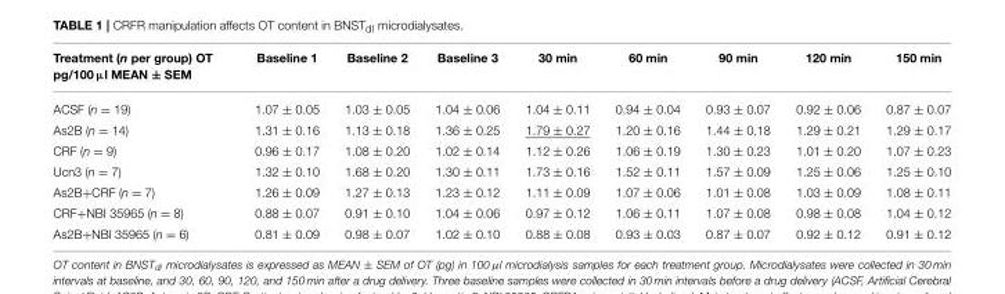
<table><thead><tr><td>Treatment (n per group) OT pg/100 µl MEAN ± SEM</td><td>Baseline 1</td><td>Baseline 2</td><td>Baseline 3</td><td>30 min</td><td>60 min</td><td>90 min</td><td>120 min</td><td>150 min</td></tr></thead><tbody><tr><td>ACSF (n = 19)</td><td>1.07 ± 0.05</td><td>1.03 ± 0.05</td><td>1.04 ± 0.06</td><td>1.04 ± 0.11</td><td>0.94 ± 0.04</td><td>0.93 ± 0.07</td><td>0.92 ± 0.06</td><td>0.87 ± 0.07</td></tr><tr><td>As2B (n = 14)</td><td>1.31 ± 0.16</td><td>1.13 ± 0.18</td><td>1.36 ± 0.25</td><td>1.79 ± 0.27</td><td>1.20 ± 0.16</td><td>1.44 ± 0.18</td><td>1.29 ± 0.21</td><td>1.29 ± 0.17</td></tr><tr><td>CRF (n = 9)</td><td>0.96 ± 0.17</td><td>1.08 ± 0.20</td><td>1.02 ± 0.14</td><td>1.12 ± 0.26</td><td>1.06 ± 0.19</td><td>1.30 ± 0.23</td><td>1.01 ± 0.20</td><td>1.07 ± 0.23</td></tr><tr><td>Ucn3 (n = 7)</td><td>1.32 ± 0.10</td><td>1.68 ± 0.20</td><td>1.30 ± 0.11</td><td>1.73 ± 0.16</td><td>1.52 ± 0.11</td><td>1.57 ± 0.09</td><td>1.25 ± 0.06</td><td>1.25 ± 0.10</td></tr><tr><td>As2B+CRF (n = 7)</td><td>1.26 ± 0.09</td><td>1.27 ± 0.13</td><td>1.23 ± 0.12</td><td>1.11 ± 0.09</td><td>1.07 ± 0.06</td><td>1.01 ± 0.08</td><td>1.03 ± 0.09</td><td>1.08 ± 0.11</td></tr><tr><td>CRF+NBI 35965 (n = 8)</td><td>0.88 ± 0.07</td><td>0.91 ± 0.10</td><td>1.04 ± 0.06</td><td>0.97 ± 0.12</td><td>1.06 ± 0.11</td><td>1.07 ± 0.08</td><td>0.98 ± 0.08</td><td>1.04 ± 0.12</td></tr><tr><td>As2B+NBI 35965 (n = 6)</td><td>0.81 ± 0.09</td><td>0.98 ± 0.07</td><td>1.02 ± 0.10</td><td>0.88 ± 0.08</td><td>0.93 ± 0.03</td><td>0.87 ± 0.07</td><td>0.92 ± 0.12</td><td>0.91 ± 0.12</td></tr></tbody></table>